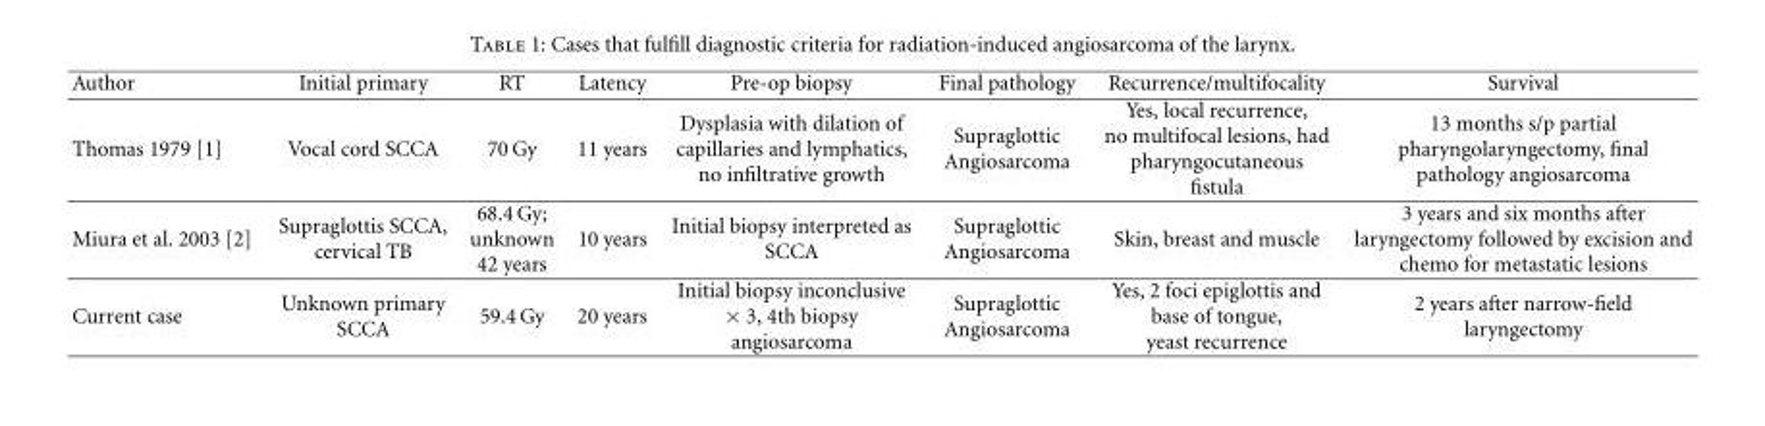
<table><thead><tr><td>Author</td><td>Initial primary</td><td>RT</td><td>Latency</td><td>Pre-op biopsy</td><td>Final pathology</td><td>Recurrence/multifocality</td><td>Survival</td></tr></thead><tbody><tr><td>Thomas 1979 [1]</td><td>Vocal cord SCCA</td><td>70 Gy</td><td>11 years</td><td>Dysplasia with dilation of capillaries and lymphatics, no infiltrative growth</td><td>Supraglottic Angiosarcoma</td><td>Yes, local recurrence, no multifocal lesions, had pharyngocutaneous fistula</td><td>13 months s/p partial pharyngolaryngectomy, final pathology angiosarcoma</td></tr><tr><td>Miura et al. 2003 [2]</td><td>Supraglottis SCCA, cervical TB</td><td>68.4 Gy; unknown 42 years</td><td>10 years</td><td>Initial biopsy interpreted as SCCA</td><td>Supraglottic Angiosarcoma</td><td>Skin, breast and muscle</td><td>3 years and six months after laryngectomy followed by excision and chemo for metastatic lesions</td></tr><tr><td>Current case</td><td>Unknown primary SCCA</td><td>59.4 Gy</td><td>20 years</td><td>Initial biopsy inconclusive × 3, 4th biopsy angiosarcoma</td><td>Supraglottic Angiosarcoma</td><td>Yes, 2 foci epiglottis and base of tongue, yeast recurrence</td><td>2 years after narrow-field laryngectomy</td></tr></tbody></table>